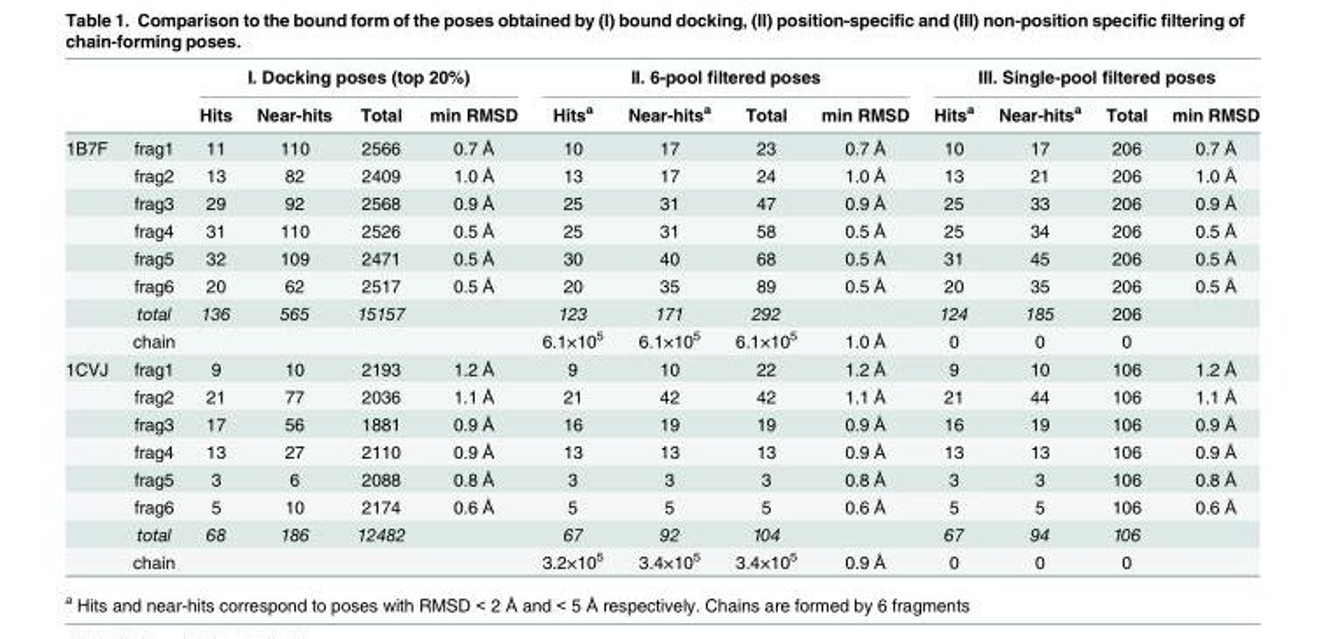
<table><thead><tr><td rowspan="2"></td><td rowspan="2"></td><td colspan="4">I. Docking poses (top 20%)</td><td colspan="4">II. 6-pool filtered poses</td><td colspan="4">III. Single-pool filtered poses</td></tr><tr><td>Hits</td><td>Near-hits</td><td>Total</td><td>min RMSD</td><td>Hits<sup>a</sup></td><td>Near-hits<sup>a</sup></td><td>Total</td><td>min RMSD</td><td>Hits<sup>a</sup></td><td>Near-hits<sup>a</sup></td><td>Total</td><td>min RMSD</td></tr></thead><tbody><tr><td rowspan="8">1B7F</td><td>frag1</td><td>11</td><td>110</td><td>2566</td><td>0.7 Å</td><td>10</td><td>17</td><td>23</td><td>0.7 Å</td><td>10</td><td>17</td><td>206</td><td>0.7 Å</td></tr><tr><td>frag2</td><td>13</td><td>82</td><td>2409</td><td>1.0 Å</td><td>13</td><td>17</td><td>24</td><td>1.0 Å</td><td>13</td><td>21</td><td>206</td><td>1.0 Å</td></tr><tr><td>frag3</td><td>29</td><td>92</td><td>2568</td><td>0.9 Å</td><td>25</td><td>31</td><td>47</td><td>0.9 Å</td><td>25</td><td>33</td><td>206</td><td>0.9 Å</td></tr><tr><td>frag4</td><td>31</td><td>110</td><td>2526</td><td>0.5 Å</td><td>25</td><td>31</td><td>58</td><td>0.5 Å</td><td>25</td><td>34</td><td>206</td><td>0.5 Å</td></tr><tr><td>frag5</td><td>32</td><td>109</td><td>2471</td><td>0.5 Å</td><td>30</td><td>40</td><td>68</td><td>0.5 Å</td><td>31</td><td>45</td><td>206</td><td>0.5 Å</td></tr><tr><td>frag6</td><td>20</td><td>62</td><td>2517</td><td>0.5 Å</td><td>20</td><td>35</td><td>89</td><td>0.5 Å</td><td>20</td><td>35</td><td>206</td><td>0.5 Å</td></tr><tr><td>total</td><td>136</td><td>565</td><td>15157</td><td></td><td>123</td><td>171</td><td>292</td><td></td><td>124</td><td>185</td><td>206</td><td></td></tr><tr><td>chain</td><td></td><td></td><td></td><td></td><td>6.1×10<sup>5</sup></td><td>6.1×10<sup>5</sup></td><td>6.1×10<sup>5</sup></td><td>1.0 Å</td><td>0</td><td>0</td><td>0</td><td></td></tr><tr><td rowspan="8">1CVJ</td><td>frag1</td><td>9</td><td>10</td><td>2193</td><td>1.2 Å</td><td>9</td><td>10</td><td>22</td><td>1.2 Å</td><td>9</td><td>10</td><td>106</td><td>1.2 Å</td></tr><tr><td>frag2</td><td>21</td><td>77</td><td>2036</td><td>1.1 Å</td><td>21</td><td>42</td><td>42</td><td>1.1 Å</td><td>21</td><td>44</td><td>106</td><td>1.1 Å</td></tr><tr><td>frag3</td><td>17</td><td>56</td><td>1881</td><td>0.9 Å</td><td>16</td><td>19</td><td>19</td><td>0.9 Å</td><td>16</td><td>19</td><td>106</td><td>0.9 Å</td></tr><tr><td>frag4</td><td>13</td><td>27</td><td>2110</td><td>0.9 Å</td><td>13</td><td>13</td><td>13</td><td>0.9 Å</td><td>13</td><td>13</td><td>106</td><td>0.9 Å</td></tr><tr><td>frag5</td><td>3</td><td>6</td><td>2088</td><td>0.8 Å</td><td>3</td><td>3</td><td>3</td><td>0.8 Å</td><td>3</td><td>3</td><td>106</td><td>0.8 Å</td></tr><tr><td>frag6</td><td>5</td><td>10</td><td>2174</td><td>0.6 Å</td><td>5</td><td>5</td><td>5</td><td>0.6 Å</td><td>5</td><td>5</td><td>106</td><td>0.6 Å</td></tr><tr><td>total</td><td>68</td><td>186</td><td>12482</td><td></td><td>67</td><td>92</td><td>104</td><td></td><td>67</td><td>94</td><td>106</td><td></td></tr><tr><td>chain</td><td></td><td></td><td></td><td></td><td>3.2×10<sup>5</sup></td><td>3.4×10<sup>5</sup></td><td>3.4×10<sup>5</sup></td><td>0.9 Å</td><td>0</td><td>0</td><td>0</td><td></td></tr></tbody></table>